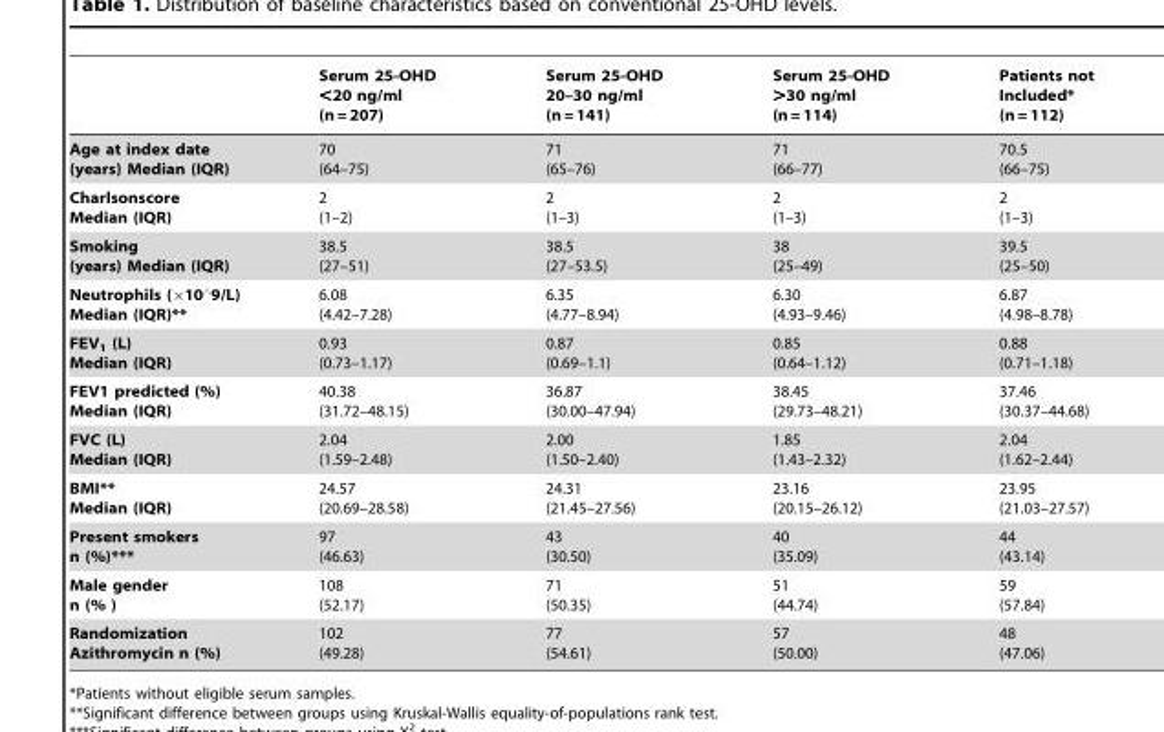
<table><thead><tr><td></td><td>Serum 25-OHD &lt;20 ng/ml (n = 207)</td><td>Serum 25-OHD 20–30 ng/ml (n = 141)</td><td>Serum 25-OHD &gt;30 ng/ml (n = 114)</td><td>Patients not Included* (n = 112)</td></tr></thead><tbody><tr><td>Age at index date (years) Median (IQR)</td><td>70 (64–75)</td><td>71 (65–76)</td><td>71 (66–77)</td><td>70.5 (66–75)</td></tr><tr><td>Charlsonscore Median (IQR)</td><td>2 (1–2)</td><td>2 (1–3)</td><td>2 (1–3)</td><td>2 (1–3)</td></tr><tr><td>Smoking (years) Median (IQR)</td><td>38.5 (27–51)</td><td>38.5 (27–53.5)</td><td>38 (25–49)</td><td>39.5 (25–50)</td></tr><tr><td>Neutrophils (610‘9/L) Median (IQR)**</td><td>6.08 (4.42–7.28)</td><td>6.35 (4.77–8.94)</td><td>6.30 (4.93–9.46)</td><td>6.87 (4.98–8.78)</td></tr><tr><td>FEV<sub>1</sub> (L) Median (IQR)</td><td>0.93 (0.73–1.17)</td><td>0.87 (0.69–1.1)</td><td>0.85 (0.64–1.12)</td><td>0.88 (0.71–1.18)</td></tr><tr><td>FEV1 predicted (%) Median (IQR)</td><td>40.38 (31.72–48.15)</td><td>36.87 (30.00–47.94)</td><td>38.45 (29.73–48.21)</td><td>37.46 (30.37–44.68)</td></tr><tr><td>FVC (L) Median (IQR)</td><td>2.04 (1.59–2.48)</td><td>2.00 (1.50–2.40)</td><td>1.85 (1.43–2.32)</td><td>2.04 (1.62–2.44)</td></tr><tr><td>BMI** Median (IQR)</td><td>24.57 (20.69–28.58)</td><td>24.31 (21.45–27.56)</td><td>23.16 (20.15–26.12)</td><td>23.95 (21.03–27.57)</td></tr><tr><td>Present smokers n (%)***</td><td>97 (46.63)</td><td>43 (30.50)</td><td>40 (35.09)</td><td>44 (43.14)</td></tr><tr><td>Male gender n (% )</td><td>108 (52.17)</td><td>71 (50.35)</td><td>51 (44.74)</td><td>59 (57.84)</td></tr><tr><td>Randomization Azithromycin n (%)</td><td>102 (49.28)</td><td>77 (54.61)</td><td>57 (50.00)</td><td>48 (47.06)</td></tr></tbody></table>